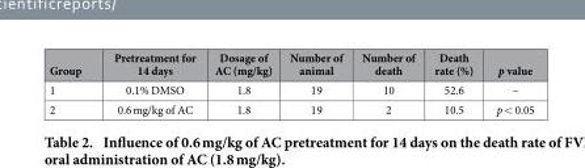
<table><thead><tr><td>Group</td><td>Pretreatment for 14 days</td><td>Dosage of AC (mg/kg)</td><td>Number of animal</td><td>Number of death</td><td>Death rate (%)</td><td>p value</td></tr></thead><tbody><tr><td>1</td><td>0.1% DMSO</td><td>1.8</td><td>19</td><td>10</td><td>52.6</td><td>–</td></tr><tr><td>2</td><td>0.6 mg/kg of AC</td><td>1.8</td><td>19</td><td>2</td><td>10.5</td><td>p &lt; 0.05</td></tr></tbody></table>